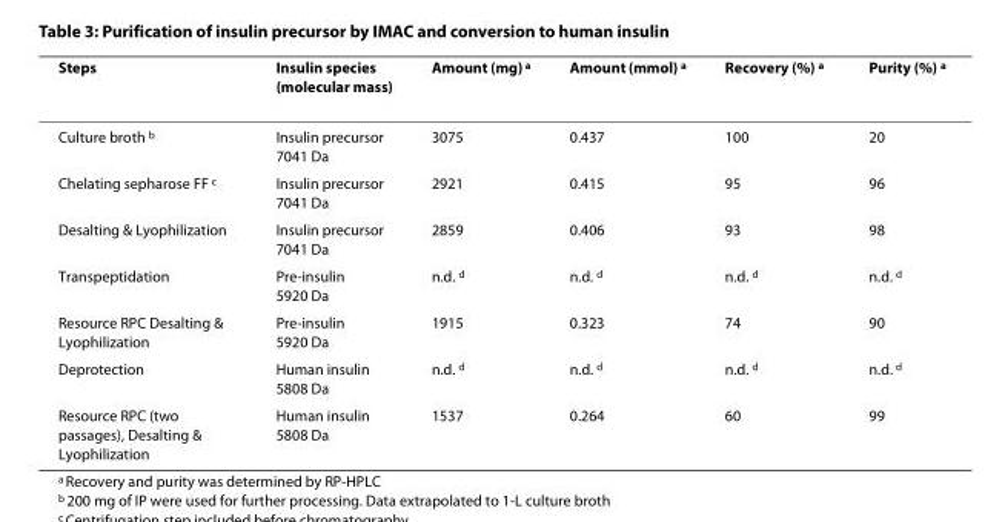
<table><thead><tr><td>Steps</td><td>Insulin species (molecular mass)</td><td>Amount (mg) <sup>a</sup></td><td>Amount (mmol) <sup>a</sup></td><td>Recovery (%) <sup>a</sup></td><td>Purity (%) <sup>a</sup></td></tr></thead><tbody><tr><td>Culture broth <sup>b</sup></td><td>Insulin precursor 7041 Da</td><td>3075</td><td>0.437</td><td>100</td><td>20</td></tr><tr><td>Chelating sepharose FF <sup>c</sup></td><td>Insulin precursor 7041 Da</td><td>2921</td><td>0.415</td><td>95</td><td>96</td></tr><tr><td>Desalting &amp; Lyophilization</td><td>Insulin precursor 7041 Da</td><td>2859</td><td>0.406</td><td>93</td><td>98</td></tr><tr><td>Transpeptidation</td><td>Pre-insulin 5920 Da</td><td>n.d. <sup>d</sup></td><td>n.d. <sup>d</sup></td><td>n.d. <sup>d</sup></td><td>n.d. <sup>d</sup></td></tr><tr><td>Resource RPC Desalting &amp; Lyophilization</td><td>Pre-insulin 5920 Da</td><td>1915</td><td>0.323</td><td>74</td><td>90</td></tr><tr><td>Deprotection</td><td>Human insulin 5808 Da</td><td>n.d. <sup>d</sup></td><td>n.d. <sup>d</sup></td><td>n.d. <sup>d</sup></td><td>n.d. <sup>d</sup></td></tr><tr><td>Resource RPC (two passages), Desalting &amp; Lyophilization</td><td>Human insulin 5808 Da</td><td>1537</td><td>0.264</td><td>60</td><td>99</td></tr></tbody></table>